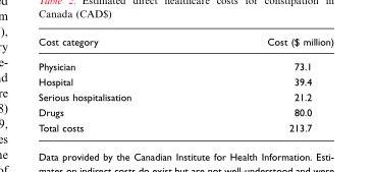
<table><thead><tr><td>Cost category</td><td>Cost ($ million)</td></tr></thead><tbody><tr><td>Physician</td><td>73.1</td></tr><tr><td>Hospital</td><td>39.4</td></tr><tr><td>Serious hospitalisation</td><td>21.2</td></tr><tr><td>Drugs</td><td>80.0</td></tr><tr><td>Total costs</td><td>213.7</td></tr></tbody></table>